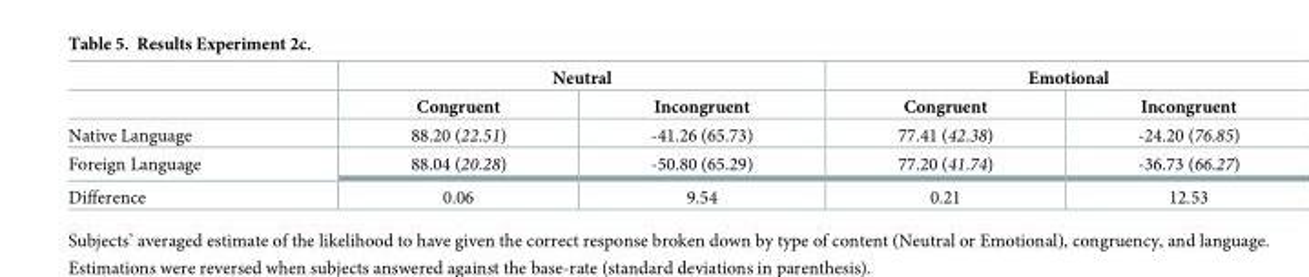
<table><thead><tr><td rowspan="2"></td><td colspan="2">Neutral</td><td colspan="2">Emotional</td></tr><tr><td>Congruent</td><td>Incongruent</td><td>Congruent</td><td>Incongruent</td></tr></thead><tbody><tr><td>Native Language</td><td>88.20 (22.51)</td><td>-41.26 (65.73)</td><td>77.41 (42.38)</td><td>-24.20 (76.85)</td></tr><tr><td>Foreign Language</td><td>88.04 (20.28)</td><td>-50.80 (65.29)</td><td>77.20 (41.74)</td><td>-36.73 (66.27)</td></tr><tr><td>Difference</td><td>0.06</td><td>9.54</td><td>0.21</td><td>12.53</td></tr></tbody></table>